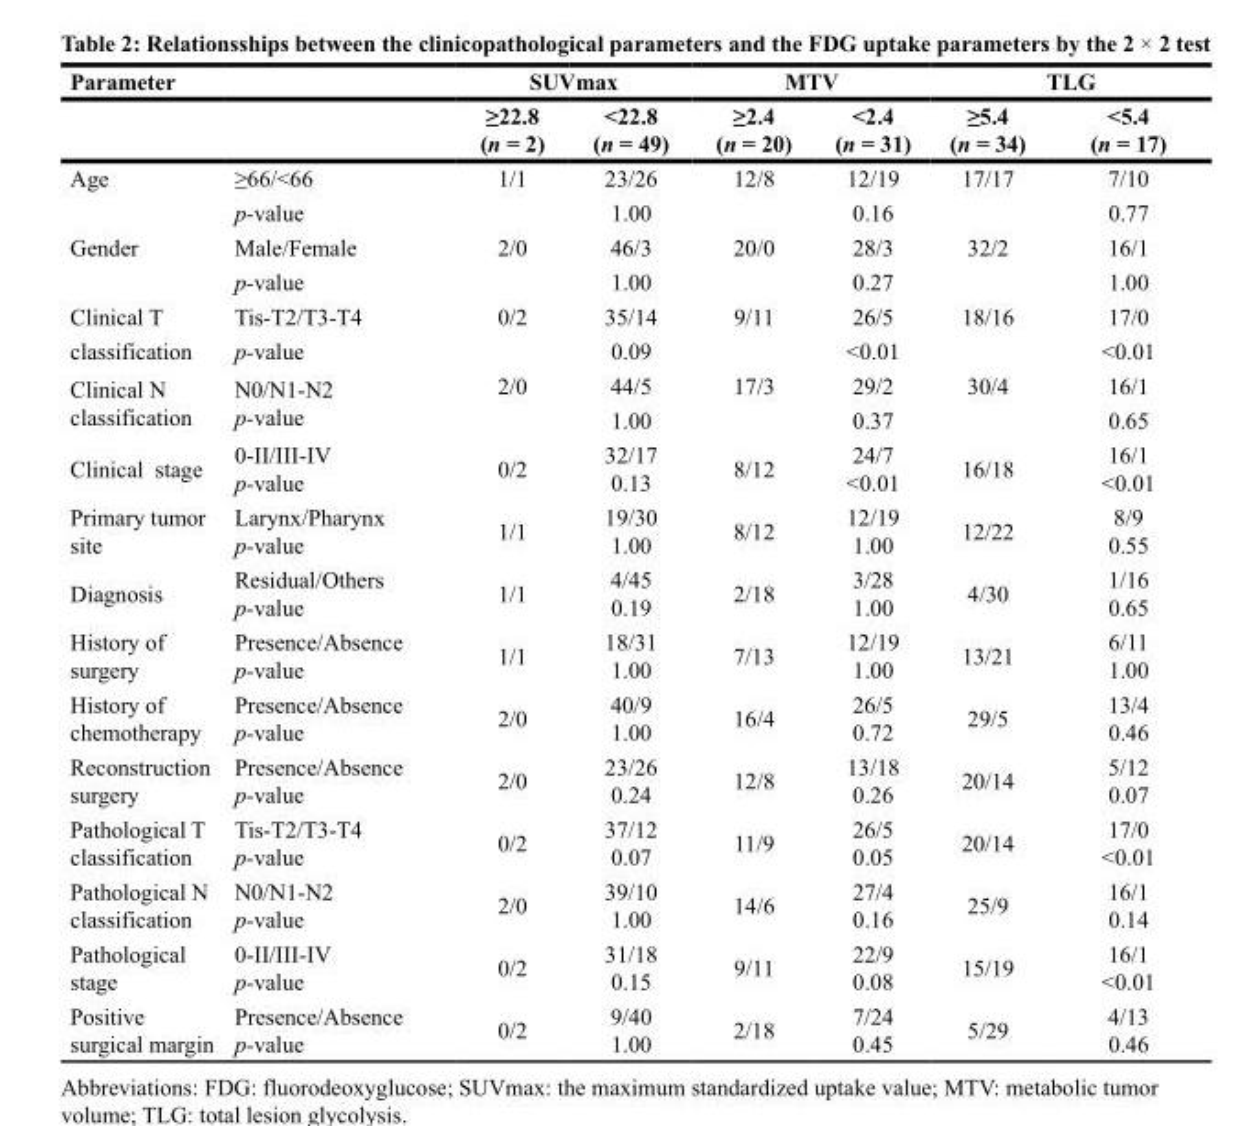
<table><thead><tr><td colspan="2">Parameter</td><td colspan="2">SUVmax</td><td colspan="2">MTV</td><td colspan="2">TLG</td></tr><tr><td></td><td></td><td>≥22.8 (n = 2)</td><td>&lt;22.8 (n = 49)</td><td>≥2.4 (n = 20)</td><td>&lt;2.4 (n = 31)</td><td>≥5.4 (n = 34)</td><td>&lt;5.4 (n = 17)</td></tr></thead><tbody><tr><td rowspan="2">Age</td><td>≥66/&lt;66</td><td>1/1</td><td>23/26</td><td>12/8</td><td>12/19</td><td>17/17</td><td>7/10</td></tr><tr><td>p-value</td><td></td><td>1.00</td><td></td><td>0.16</td><td></td><td>0.77</td></tr><tr><td rowspan="2">Gender</td><td>Male/Female</td><td>2/0</td><td>46/3</td><td>20/0</td><td>28/3</td><td>32/2</td><td>16/1</td></tr><tr><td>p-value</td><td></td><td>1.00</td><td></td><td>0.27</td><td></td><td>1.00</td></tr><tr><td>Clinical T</td><td>Tis-T2/T3-T4</td><td>0/2</td><td>35/14</td><td>9/11</td><td>26/5</td><td>18/16</td><td>17/0</td></tr><tr><td>classification</td><td>p-value</td><td></td><td>0.09</td><td></td><td>&lt;0.01</td><td></td><td>&lt;0.01</td></tr><tr><td rowspan="2">Clinical N classification</td><td rowspan="2">N0/N1-N2 p-value</td><td>2/0</td><td>44/5</td><td>17/3</td><td>29/2</td><td>30/4</td><td>16/1</td></tr><tr><td></td><td>1.00</td><td></td><td>0.37</td><td></td><td>0.65</td></tr><tr><td>Clinical stage</td><td>0-II/III-IV p-value</td><td>0/2</td><td>32/17 0.13</td><td>8/12</td><td>24/7 &lt;0.01</td><td>16/18</td><td>16/1 &lt;0.01</td></tr><tr><td>Primary tumor site</td><td>Larynx/Pharynx p-value</td><td>1/1</td><td>19/30 1.00</td><td>8/12</td><td>12/19 1.00</td><td>12/22</td><td>8/9 0.55</td></tr><tr><td>Diagnosis</td><td>Residual/Others p-value</td><td>1/1</td><td>4/45 0.19</td><td>2/18</td><td>3/28 1.00</td><td>4/30</td><td>1/16 0.65</td></tr><tr><td>History of surgery</td><td>Presence/Absence p-value</td><td>1/1</td><td>18/31 1.00</td><td>7/13</td><td>12/19 1.00</td><td>13/21</td><td>6/11 1.00</td></tr><tr><td>History of chemotherapy</td><td>Presence/Absence p-value</td><td>2/0</td><td>40/9 1.00</td><td>16/4</td><td>26/5 0.72</td><td>29/5</td><td>13/4 0.46</td></tr><tr><td>Reconstruction surgery</td><td>Presence/Absence p-value</td><td>2/0</td><td>23/26 0.24</td><td>12/8</td><td>13/18 0.26</td><td>20/14</td><td>5/12 0.07</td></tr><tr><td>Pathological T classification</td><td>Tis-T2/T3-T4 p-value</td><td>0/2</td><td>37/12 0.07</td><td>11/9</td><td>26/5 0.05</td><td>20/14</td><td>17/0 &lt;0.01</td></tr><tr><td>Pathological N classification</td><td>N0/N1-N2 p-value</td><td>2/0</td><td>39/10 1.00</td><td>14/6</td><td>27/4 0.16</td><td>25/9</td><td>16/1 0.14</td></tr><tr><td>Pathological stage</td><td>0-II/III-IV p-value</td><td>0/2</td><td>31/18 0.15</td><td>9/11</td><td>22/9 0.08</td><td>15/19</td><td>16/1 &lt;0.01</td></tr><tr><td>Positive surgical margin</td><td>Presence/Absence p-value</td><td>0/2</td><td>9/40 1.00</td><td>2/18</td><td>7/24 0.45</td><td>5/29</td><td>4/13 0.46</td></tr></tbody></table>